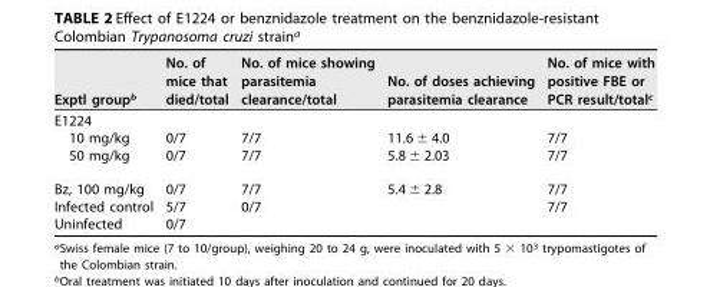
<table><thead><tr><td>Exptl group<sup>b</sup></td><td>No. of mice that died/total</td><td>No. of mice showing parasitemia clearance/total</td><td>No. of doses achieving parasitemia clearance</td><td>No. of mice with positive FBE or PCR result/total<sup>c</sup></td></tr></thead><tbody><tr><td colspan="5">E1224</td></tr><tr><td>10 mg/kg</td><td>0/7</td><td>7/7</td><td>11.6 ± 4.0</td><td>7/7</td></tr><tr><td>50 mg/kg</td><td>0/7</td><td>7/7</td><td>5.8 ± 2.03</td><td>7/7</td></tr><tr><td>Bz, 100 mg/kg</td><td>0/7</td><td>7/7</td><td>5.4 ± 2.8</td><td>7/7</td></tr><tr><td>Infected control</td><td>5/7</td><td>0/7</td><td></td><td>7/7</td></tr><tr><td>Uninfected</td><td>0/7</td><td></td><td></td><td></td></tr></tbody></table>